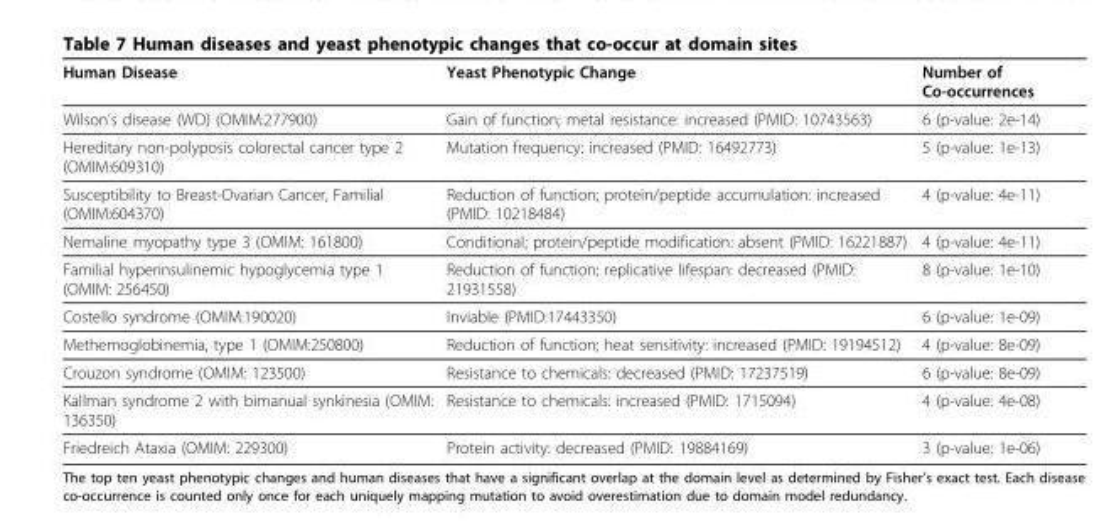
<table><thead><tr><td>Human Disease</td><td>Yeast Phenotypic Change</td><td>Number of Co-occurrences</td></tr></thead><tbody><tr><td>Wilson’s disease (WD) (OMIM:277900)</td><td>Gain of function; metal resistance: increased (PMID: 10743563)</td><td>6 (p-value: 2e-14)</td></tr><tr><td>Hereditary non-polyposis colorectal cancer type 2 (OMIM:609310)</td><td>Mutation frequency: increased (PMID: 16492773)</td><td>5 (p-value: 1e-13)</td></tr><tr><td>Susceptibility to Breast-Ovarian Cancer, Familial (OMIM:604370)</td><td>Reduction of function; protein/peptide accumulation: increased (PMID: 10218484)</td><td>4 (p-value: 4e-11)</td></tr><tr><td>Nemaline myopathy type 3 (OMIM: 161800)</td><td>Conditional; protein/peptide modification: absent (PMID: 16221887)</td><td>4 (p-value: 4e-11)</td></tr><tr><td>Familial hyperinsulinemic hypoglycemia type 1 (OMIM: 256450)</td><td>Reduction of function; replicative lifespan: decreased (PMID: 21931558)</td><td>8 (p-value: 1e-10)</td></tr><tr><td>Costello syndrome (OMIM:190020)</td><td>Inviable (PMID:17443350)</td><td>6 (p-value: 1e-09)</td></tr><tr><td>Methemoglobinemia, type 1 (OMIM:250800)</td><td>Reduction of function; heat sensitivity: increased (PMID: 19194512)</td><td>4 (p-value: 8e-09)</td></tr><tr><td>Crouzon syndrome (OMIM: 123500)</td><td>Resistance to chemicals: decreased (PMID: 17237519)</td><td>6 (p-value: 8e-09)</td></tr><tr><td>Kallman syndrome 2 with bimanual synkinesia (OMIM: 136350)</td><td>Resistance to chemicals: increased (PMID: 1715094)</td><td>4 (p-value: 4e-08)</td></tr><tr><td>Friedreich Ataxia (OMIM: 229300)</td><td>Protein activity: decreased (PMID: 19884169)</td><td>3 (p-value: 1e-06)</td></tr></tbody></table>